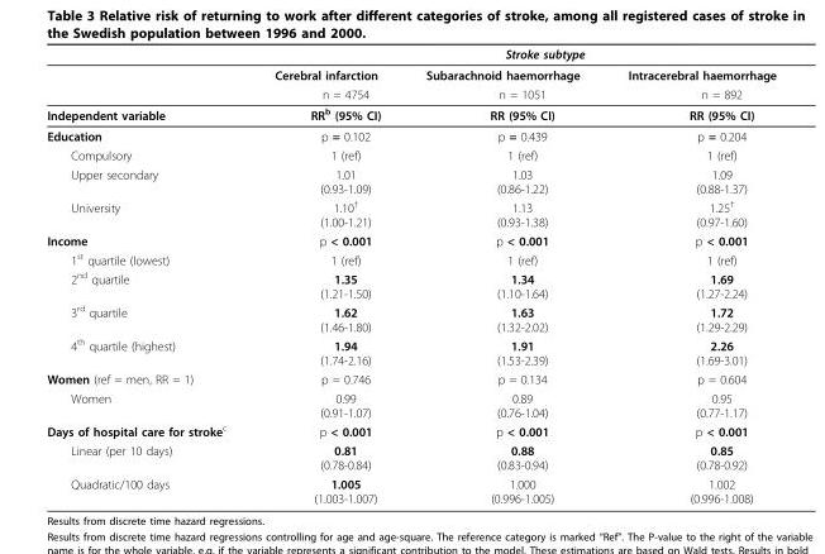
<table><thead><tr><td rowspan="2"></td><td colspan="3">Stroke subtype</td></tr><tr><td>Cerebral infarction</td><td>Subarachnoid haemorrhage</td><td>Intracerebral haemorrhage</td></tr></thead><tbody><tr><td></td><td>n = 4754</td><td>n = 1051</td><td>n = 892</td></tr><tr><td>Independent variable</td><td>RR<sup>b</sup> (95% CI)</td><td>RR (95% CI)</td><td>RR (95% CI)</td></tr><tr><td>Education</td><td>p = 0.102</td><td>p = 0.439</td><td>p = 0.204</td></tr><tr><td>Compulsory</td><td>1 (ref)</td><td>1 (ref)</td><td>1 (ref)</td></tr><tr><td>Upper secondary</td><td>1.01 (0.93-1.09)</td><td>1.03 (0.86-1.22)</td><td>1.09 (0.88-1.37)</td></tr><tr><td>University</td><td>1.10<sup>†</sup> (1.00-1.21)</td><td>1.13 (0.93-1.38)</td><td>1.25<sup>†</sup> (0.97-1.60)</td></tr><tr><td>Income</td><td>p &lt; 0.001</td><td>p &lt; 0.001</td><td>p &lt; 0.001</td></tr><tr><td>1<sup>st</sup> quartile (lowest)</td><td>1 (ref)</td><td>1 (ref)</td><td>1 (ref)</td></tr><tr><td>2<sup>nd</sup> quartile</td><td>1.35 (1.21-1.50)</td><td>1.34 (1.10-1.64)</td><td>1.69 (1.27-2.24)</td></tr><tr><td>3<sup>rd</sup> quartile</td><td>1.62 (1.46-1.80)</td><td>1.63 (1.32-2.02)</td><td>1.72 (1.29-2.29)</td></tr><tr><td>4<sup>th</sup> quartile (highest)</td><td>1.94 (1.74-2.16)</td><td>1.91 (1.53-2.39)</td><td>2.26 (1.69-3.01)</td></tr><tr><td>Women (ref = men, RR = 1)</td><td>p = 0.746</td><td>p = 0.134</td><td>p = 0.604</td></tr><tr><td>Women</td><td>0.99 (0.91-1.07)</td><td>0.89 (0.76-1.04)</td><td>0.95 (0.77-1.17)</td></tr><tr><td>Days of hospital care for stroke<sup>c</sup></td><td>p &lt; 0.001</td><td>p &lt; 0.001</td><td>p &lt; 0.001</td></tr><tr><td>Linear (per 10 days)</td><td>0.81 (0.78-0.84)</td><td>0.88 (0.83-0.94)</td><td>0.85 (0.78-0.92)</td></tr><tr><td>Quadratic/100 days</td><td>1.005 (1.003-1.007)</td><td>1.000 (0.996-1.005)</td><td>1.002 (0.996-1.008)</td></tr></tbody></table>